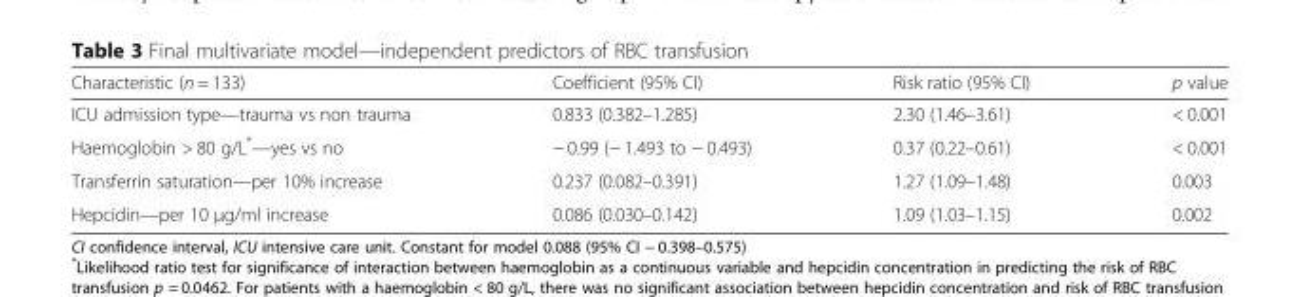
<table><thead><tr><td>Characteristic (n = 133)</td><td>Coefficient (95% CI)</td><td>Risk ratio (95% CI)</td><td>p value</td></tr></thead><tbody><tr><td>ICU admission type—trauma vs non trauma</td><td>0.833 (0.382–1.285)</td><td>2.30 (1.46–3.61)</td><td>&lt; 0.001</td></tr><tr><td>Haemoglobin &gt; 80 g/L*—yes vs no</td><td>− 0.99 (− 1.493 to − 0.493)</td><td>0.37 (0.22–0.61)</td><td>&lt; 0.001</td></tr><tr><td>Transferrin saturation—per 10% increase</td><td>0.237 (0.082–0.391)</td><td>1.27 (1.09–1.48)</td><td>0.003</td></tr><tr><td>Hepcidin—per 10 μg/ml increase</td><td>0.086 (0.030–0.142)</td><td>1.09 (1.03–1.15)</td><td>0.002</td></tr></tbody></table>